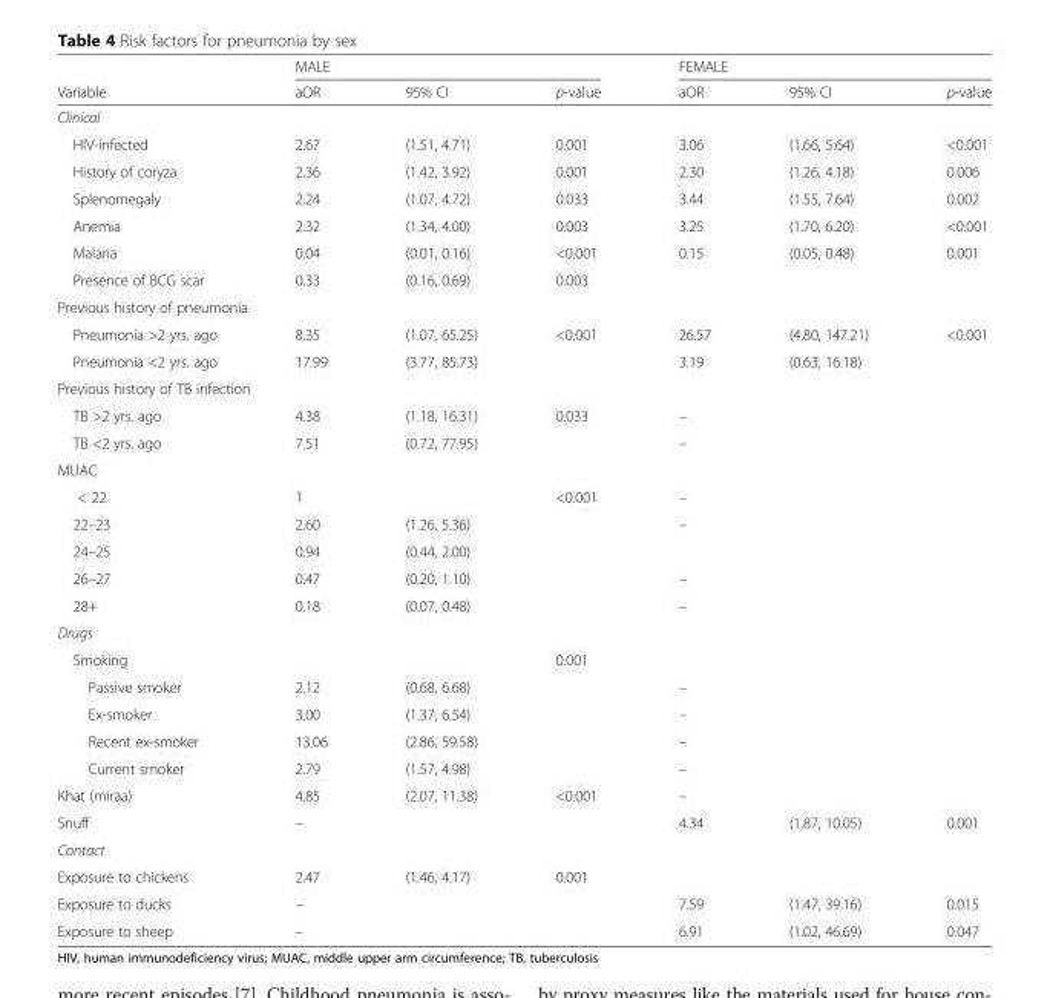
<table><thead><tr><td rowspan="2">Variable</td><td colspan="3">MALE</td><td colspan="3">FEMALE</td></tr><tr><td>aOR</td><td>95% CI</td><td>p-value</td><td>aOR</td><td>95% CI</td><td>p-value</td></tr></thead><tbody><tr><td colspan="7">Clinical</td></tr><tr><td>HIV-infected</td><td>2.67</td><td>(1.51, 4.71)</td><td>0.001</td><td>3.06</td><td>(1.66, 5.64)</td><td>&lt;0.001</td></tr><tr><td>History of coryza</td><td>2.36</td><td>(1.42, 3.92)</td><td>0.001</td><td>2.30</td><td>(1.26, 4.18)</td><td>0.006</td></tr><tr><td>Splenomegaly</td><td>2.24</td><td>(1.07, 4.72)</td><td>0.033</td><td>3.44</td><td>(1.55, 7.64)</td><td>0.002</td></tr><tr><td>Anemia</td><td>2.32</td><td>(1.34, 4.00)</td><td>0.003</td><td>3.25</td><td>(1.70, 6.20)</td><td>&lt;0.001</td></tr><tr><td>Malaria</td><td>0.04</td><td>(0.01, 0.16)</td><td>&lt;0.001</td><td>0.15</td><td>(0.05, 0.48)</td><td>0.001</td></tr><tr><td>Presence of BCG scar</td><td>0.33</td><td>(0.16, 0.69)</td><td>0.003</td><td></td><td></td><td></td></tr><tr><td colspan="7">Previous history of pneumonia</td></tr><tr><td>Pneumonia &gt;2 yrs. ago</td><td>8.35</td><td>(1.07, 65.25)</td><td>&lt;0.001</td><td>26.57</td><td>(4.80, 147.21)</td><td>&lt;0.001</td></tr><tr><td>Pneumonia &lt;2 yrs. ago</td><td>17.99</td><td>(3.77, 85.73)</td><td></td><td>3.19</td><td>(0.63, 16.18)</td><td></td></tr><tr><td colspan="7">Previous history of TB infection</td></tr><tr><td>TB &gt;2 yrs. ago</td><td>4.38</td><td>(1.18, 16.31)</td><td>0.033</td><td>–</td><td></td><td></td></tr><tr><td>TB &lt;2 yrs. ago</td><td>7.51</td><td>(0.72, 77.95)</td><td></td><td>–</td><td></td><td></td></tr><tr><td colspan="7">MUAC</td></tr><tr><td>&lt; 22</td><td>1</td><td></td><td>&lt;0.001</td><td>–</td><td></td><td></td></tr><tr><td>22–23</td><td>2.60</td><td>(1.26, 5.36)</td><td></td><td>–</td><td></td><td></td></tr><tr><td>24–25</td><td>0.94</td><td>(0.44, 2.00)</td><td></td><td></td><td></td><td></td></tr><tr><td>26–27</td><td>0.47</td><td>(0.20, 1.10)</td><td></td><td>–</td><td></td><td></td></tr><tr><td>28+</td><td>0.18</td><td>(0.07, 0.48)</td><td></td><td>–</td><td></td><td></td></tr><tr><td colspan="7">Drugs</td></tr><tr><td>Smoking</td><td></td><td></td><td>0.001</td><td></td><td></td><td></td></tr><tr><td>Passive smoker</td><td>2.12</td><td>(0.68, 6.68)</td><td></td><td>–</td><td></td><td></td></tr><tr><td>Ex-smoker</td><td>3.00</td><td>(1.37, 6.54)</td><td></td><td>–</td><td></td><td></td></tr><tr><td>Recent ex-smoker</td><td>13.06</td><td>(2.86, 59.58)</td><td></td><td>–</td><td></td><td></td></tr><tr><td>Current smoker</td><td>2.79</td><td>(1.57, 4.98)</td><td></td><td>–</td><td></td><td></td></tr><tr><td>Khat (miraa)</td><td>4.85</td><td>(2.07, 11.38)</td><td>&lt;0.001</td><td>–</td><td></td><td></td></tr><tr><td>Snuff</td><td>–</td><td></td><td></td><td>4.34</td><td>(1.87, 10.05)</td><td>0.001</td></tr><tr><td colspan="7">Contact</td></tr><tr><td>Exposure to chickens</td><td>2.47</td><td>(1.46, 4.17)</td><td>0.001</td><td></td><td></td><td></td></tr><tr><td>Exposure to ducks</td><td>–</td><td></td><td></td><td>7.59</td><td>(1.47, 39.16)</td><td>0.015</td></tr><tr><td>Exposure to sheep</td><td>–</td><td></td><td></td><td>6.91</td><td>(1.02, 46.69)</td><td>0.047</td></tr></tbody></table>